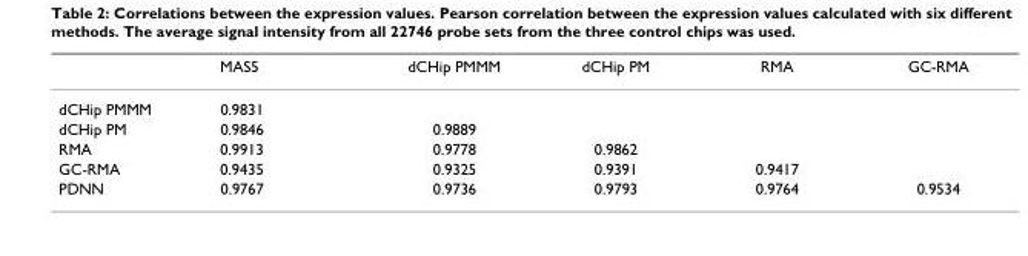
<table><thead><tr><td></td><td>MAS5</td><td>dCHip PMMM</td><td>dCHip PM</td><td>RMA</td><td>GC-RMA</td></tr></thead><tbody><tr><td>dCHip PMMM</td><td>0.9831</td><td></td><td></td><td></td><td></td></tr><tr><td>dCHip PM</td><td>0.9846</td><td>0.9889</td><td></td><td></td><td></td></tr><tr><td>RMA</td><td>0.9913</td><td>0.9778</td><td>0.9862</td><td></td><td></td></tr><tr><td>GC-RMA</td><td>0.9435</td><td>0.9325</td><td>0.9391</td><td>0.9417</td><td></td></tr><tr><td>PDNN</td><td>0.9767</td><td>0.9736</td><td>0.9793</td><td>0.9764</td><td>0.9534</td></tr></tbody></table>